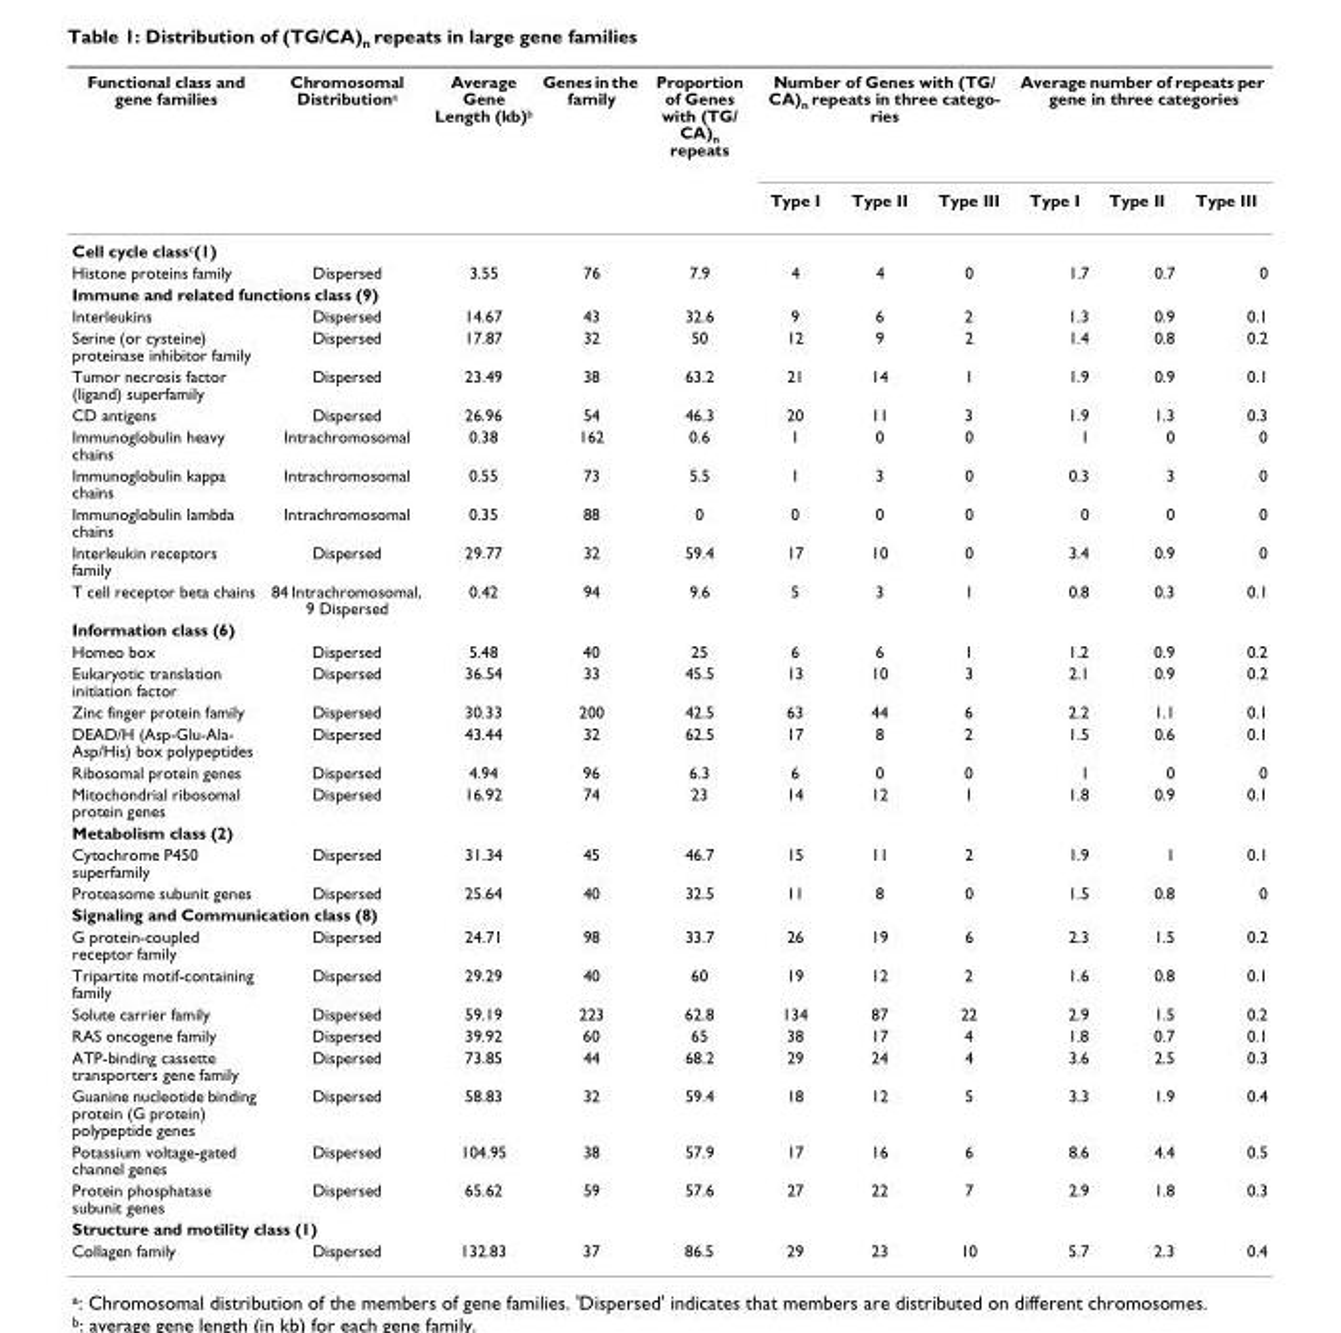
<table><thead><tr><td rowspan="2">Functional class and gene families</td><td rowspan="2">Chromosomal Distribution<sup>a</sup></td><td rowspan="2">Average Gene Length (kb)<sup>b</sup></td><td rowspan="2">Genes in the family</td><td rowspan="2">Proportion of Genes with (TG/ CA)<sub>n</sub> repeats</td><td colspan="3">Number of Genes with (TG/ CA)n repeats in three catego- ries</td><td colspan="3">Average number of repeats per gene in three categories</td></tr><tr><td>Type I</td><td>Type II</td><td>Type III</td><td>Type I</td><td>Type II</td><td>Type III</td></tr></thead><tbody><tr><td colspan="11">Cell cycle class<sup>c</sup>(1)</td></tr><tr><td>Histone proteins family</td><td>Dispersed</td><td>3.55</td><td>76</td><td>7.9</td><td>4</td><td>4</td><td>0</td><td>1.7</td><td>0.7</td><td>0</td></tr><tr><td colspan="11">Immune and related functions class (9)</td></tr><tr><td>Interleukins</td><td>Dispersed</td><td>14.67</td><td>43</td><td>32.6</td><td>9</td><td>6</td><td>2</td><td>1.3</td><td>0.9</td><td>0.1</td></tr><tr><td>Serine (or cysteine) proteinase inhibitor family</td><td>Dispersed</td><td>17.87</td><td>32</td><td>50</td><td>12</td><td>9</td><td>2</td><td>1.4</td><td>0.8</td><td>0.2</td></tr><tr><td>Tumor necrosis factor (ligand) superfamily</td><td>Dispersed</td><td>23.49</td><td>38</td><td>63.2</td><td>21</td><td>14</td><td>1</td><td>1.9</td><td>0.9</td><td>0.1</td></tr><tr><td>CD antigens</td><td>Dispersed</td><td>26.96</td><td>54</td><td>46.3</td><td>20</td><td>11</td><td>3</td><td>1.9</td><td>1.3</td><td>0.3</td></tr><tr><td>Immunoglobulin heavy chains</td><td>Intrachromosomal</td><td>0.38</td><td>162</td><td>0.6</td><td>1</td><td>0</td><td>0</td><td>1</td><td>0</td><td>0</td></tr><tr><td>Immunoglobulin kappa chains</td><td>Intrachromosomal</td><td>0.55</td><td>73</td><td>5.5</td><td>1</td><td>3</td><td>0</td><td>0.3</td><td>3</td><td>0</td></tr><tr><td>Immunoglobulin lambda chains</td><td>Intrachromosomal</td><td>0.35</td><td>88</td><td>0</td><td>0</td><td>0</td><td>0</td><td>0</td><td>0</td><td>0</td></tr><tr><td>Interleukin receptors family</td><td>Dispersed</td><td>29.77</td><td>32</td><td>59.4</td><td>17</td><td>10</td><td>0</td><td>3.4</td><td>0.9</td><td>0</td></tr><tr><td>T cell receptor beta chains</td><td>84 Intrachromosomal, 9 Dispersed</td><td>0.42</td><td>94</td><td>9.6</td><td>5</td><td>3</td><td>1</td><td>0.8</td><td>0.3</td><td>0.1</td></tr><tr><td colspan="11">Information class (6)</td></tr><tr><td>Homeo box</td><td>Dispersed</td><td>5.48</td><td>40</td><td>25</td><td>6</td><td>6</td><td>1</td><td>1.2</td><td>0.9</td><td>0.2</td></tr><tr><td>Eukaryotic translation initiation factor</td><td>Dispersed</td><td>36.54</td><td>33</td><td>45.5</td><td>13</td><td>10</td><td>3</td><td>2.1</td><td>0.9</td><td>0.2</td></tr><tr><td>Zinc finger protein family</td><td>Dispersed</td><td>30.33</td><td>200</td><td>42.5</td><td>63</td><td>44</td><td>6</td><td>2.2</td><td>1.1</td><td>0.1</td></tr><tr><td>DEAD/H (Asp-Glu-Ala- Asp/His) box polypeptides</td><td>Dispersed</td><td>43.44</td><td>32</td><td>62.5</td><td>17</td><td>8</td><td>2</td><td>1.5</td><td>0.6</td><td>0.1</td></tr><tr><td>Ribosomal protein genes</td><td>Dispersed</td><td>4.94</td><td>96</td><td>6.3</td><td>6</td><td>0</td><td>0</td><td>1</td><td>0</td><td>0</td></tr><tr><td>Mitochondrial ribosomal protein genes</td><td>Dispersed</td><td>16.92</td><td>74</td><td>23</td><td>14</td><td>12</td><td>1</td><td>1.8</td><td>0.9</td><td>0.1</td></tr><tr><td colspan="11">Metabolism class (2)</td></tr><tr><td>Cytochrome P450 superfamily</td><td>Dispersed</td><td>31.34</td><td>45</td><td>46.7</td><td>15</td><td>11</td><td>2</td><td>1.9</td><td>1</td><td>0.1</td></tr><tr><td>Proteasome subunit genes</td><td>Dispersed</td><td>25.64</td><td>40</td><td>32.5</td><td>11</td><td>8</td><td>0</td><td>1.5</td><td>0.8</td><td>0</td></tr><tr><td colspan="11">Signaling and Communication class (8)</td></tr><tr><td>G protein-coupled receptor family</td><td>Dispersed</td><td>24.71</td><td>98</td><td>33.7</td><td>26</td><td>19</td><td>6</td><td>2.3</td><td>1.5</td><td>0.2</td></tr><tr><td>Tripartite motif-containing family</td><td>Dispersed</td><td>29.29</td><td>40</td><td>60</td><td>19</td><td>12</td><td>2</td><td>1.6</td><td>0.8</td><td>0.1</td></tr><tr><td>Solute carrier family</td><td>Dispersed</td><td>59.19</td><td>223</td><td>62.8</td><td>134</td><td>87</td><td>22</td><td>2.9</td><td>1.5</td><td>0.2</td></tr><tr><td>RAS oncogene family</td><td>Dispersed</td><td>39.92</td><td>60</td><td>65</td><td>38</td><td>17</td><td>4</td><td>1.8</td><td>0.7</td><td>0.1</td></tr><tr><td>ATP-binding cassette transporters gene family</td><td>Dispersed</td><td>73.85</td><td>44</td><td>68.2</td><td>29</td><td>24</td><td>4</td><td>3.6</td><td>2.5</td><td>0.3</td></tr><tr><td>Guanine nucleotide binding protein (G protein) polypeptide genes</td><td>Dispersed</td><td>58.83</td><td>32</td><td>59.4</td><td>18</td><td>12</td><td>5</td><td>3.3</td><td>1.9</td><td>0.4</td></tr><tr><td>Potassium voltage-gated channel genes</td><td>Dispersed</td><td>104.95</td><td>38</td><td>57.9</td><td>17</td><td>16</td><td>6</td><td>8.6</td><td>4.4</td><td>0.5</td></tr><tr><td>Protein phosphatase subunit genes</td><td>Dispersed</td><td>65.62</td><td>59</td><td>57.6</td><td>27</td><td>22</td><td>7</td><td>2.9</td><td>1.8</td><td>0.3</td></tr><tr><td colspan="11">Structure and motility class (1)</td></tr><tr><td>Collagen family</td><td>Dispersed</td><td>132.83</td><td>37</td><td>86.5</td><td>29</td><td>23</td><td>10</td><td>5.7</td><td>2.3</td><td>0.4</td></tr></tbody></table>